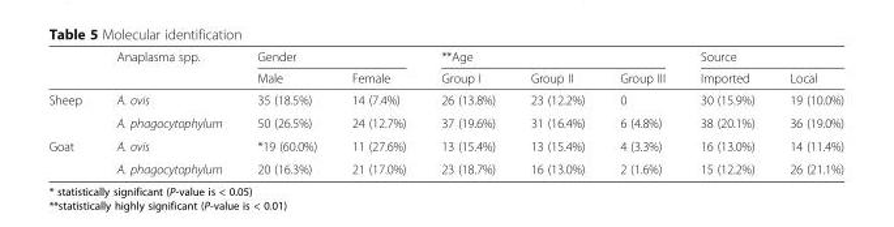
<table><thead><tr><td rowspan="2"></td><td rowspan="2">Anaplasma spp.</td><td colspan="2">Gender</td><td colspan="3">**Age</td><td colspan="2">Source</td></tr><tr><td>Male</td><td>Female</td><td>Group I</td><td>Group II</td><td>Group III</td><td>Imported</td><td>Local</td></tr></thead><tbody><tr><td rowspan="2">Sheep</td><td>A. ovis</td><td>35 (18.5%)</td><td>14 (7.4%)</td><td>26 (13.8%)</td><td>23 (12.2%)</td><td>0</td><td>30 (15.9%)</td><td>19 (10.0%)</td></tr><tr><td>A. phagocytophylum</td><td>50 (26.5%)</td><td>24 (12.7%)</td><td>37 (19.6%)</td><td>31 (16.4%)</td><td>6 (4.8%)</td><td>38 (20.1%)</td><td>36 (19.0%)</td></tr><tr><td rowspan="2">Goat</td><td>A. ovis</td><td>*19 (60.0%)</td><td>11 (27.6%)</td><td>13 (15.4%)</td><td>13 (15.4%)</td><td>4 (3.3%)</td><td>16 (13.0%)</td><td>14 (11.4%)</td></tr><tr><td>A. phagocytophylum</td><td>20 (16.3%)</td><td>21 (17.0%)</td><td>23 (18.7%)</td><td>16 (13.0%)</td><td>2 (1.6%)</td><td>15 (12.2%)</td><td>26 (21.1%)</td></tr></tbody></table>